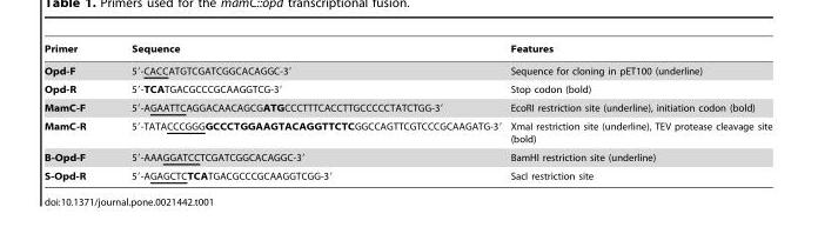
<table><thead><tr><td>Primer</td><td>Sequence</td><td>Features</td></tr></thead><tbody><tr><td>Opd-F</td><td>5′-CACCATGTCGATCGGCACAGGC-3′</td><td>Sequence for cloning in pET100 (underline)</td></tr><tr><td>Opd-R</td><td>5′-TCATGACGCCCGCAAGGTCG-3′</td><td>Stop codon (bold)</td></tr><tr><td>MamC-F</td><td>5′-AGAATTCAGGACAACAGCGATGCCCTTTCACCTTGCCCCCTATCTGG-3′</td><td>EcoRI restriction site (underline), initiation codon (bold)</td></tr><tr><td>MamC-R</td><td>5′-TATACCCGGGGCCCTGGAAGTACAGGTTCTCGGCCAGTTCGTCCCGCAAGATG-3′</td><td>XmaI restriction site (underline), TEV protease cleavage site (bold)</td></tr><tr><td>B-Opd-F</td><td>5′-AAAGGATCCTCGATCGGCACAGGC-3′</td><td>BamHI restriction site (underline)</td></tr><tr><td>S-Opd-R</td><td>5′-AGAGCTCTCATGACGCCCGCAAGGTCGG-3′</td><td>SacI restriction site</td></tr></tbody></table>